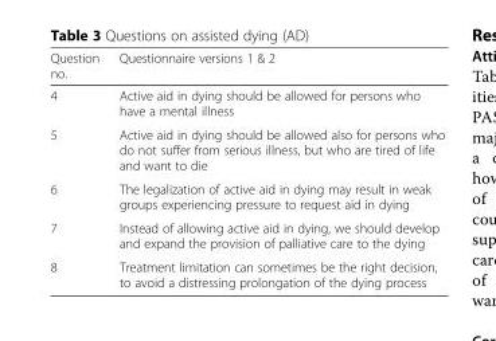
<table><thead><tr><td>Question no.</td><td>Questionnaire versions 1 &amp; 2</td></tr></thead><tbody><tr><td>4</td><td>Active aid in dying should be allowed for persons who have a mental illness</td></tr><tr><td>5</td><td>Active aid in dying should be allowed also for persons who do not suffer from serious illness, but who are tired of life and want to die</td></tr><tr><td>6</td><td>The legalization of active aid in dying may result in weak groups experiencing pressure to request aid in dying</td></tr><tr><td>7</td><td>Instead of allowing active aid in dying, we should develop and expand the provision of palliative care to the dying</td></tr><tr><td>8</td><td>Treatment limitation can sometimes be the right decision, to avoid a distressing prolongation of the dying process</td></tr></tbody></table>